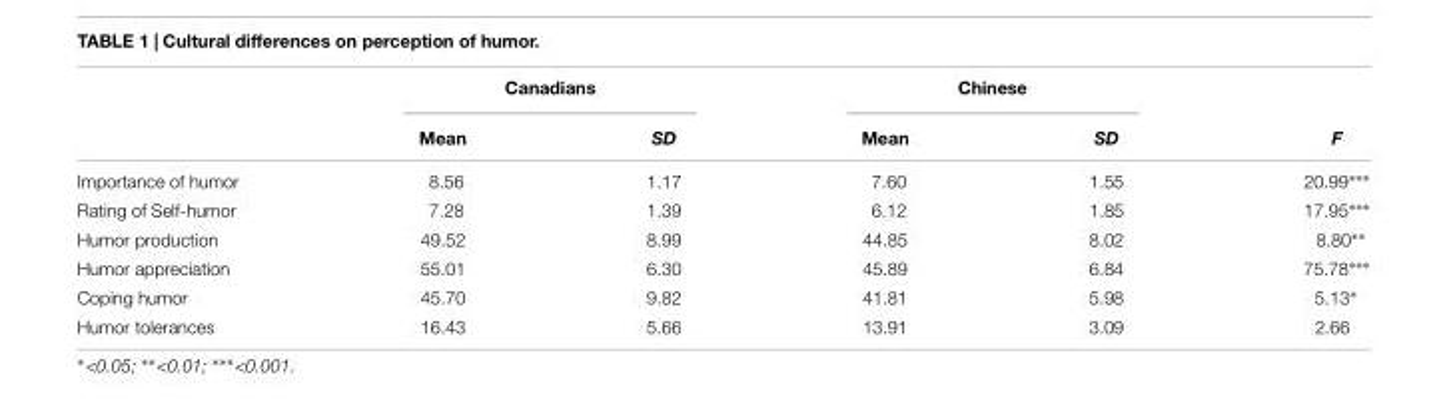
<table><thead><tr><td rowspan="2"></td><td colspan="2">Canadians</td><td colspan="2">Chinese</td><td rowspan="2">F</td></tr><tr><td>Mean</td><td>SD</td><td>Mean</td><td>SD</td></tr></thead><tbody><tr><td>Importance of humor</td><td>8.56</td><td>1.17</td><td>7.60</td><td>1.55</td><td>20.99∗∗∗</td></tr><tr><td>Rating of Self-humor</td><td>7.28</td><td>1.39</td><td>6.12</td><td>1.85</td><td>17.95∗∗∗</td></tr><tr><td>Humor production</td><td>49.52</td><td>8.99</td><td>44.85</td><td>8.02</td><td>8.80∗∗</td></tr><tr><td>Humor appreciation</td><td>55.01</td><td>6.30</td><td>45.89</td><td>6.84</td><td>75.78∗∗∗</td></tr><tr><td>Coping humor</td><td>45.70</td><td>9.82</td><td>41.81</td><td>5.98</td><td>5.13∗</td></tr><tr><td>Humor tolerances</td><td>16.43</td><td>5.66</td><td>13.91</td><td>3.09</td><td>2.66</td></tr></tbody></table>